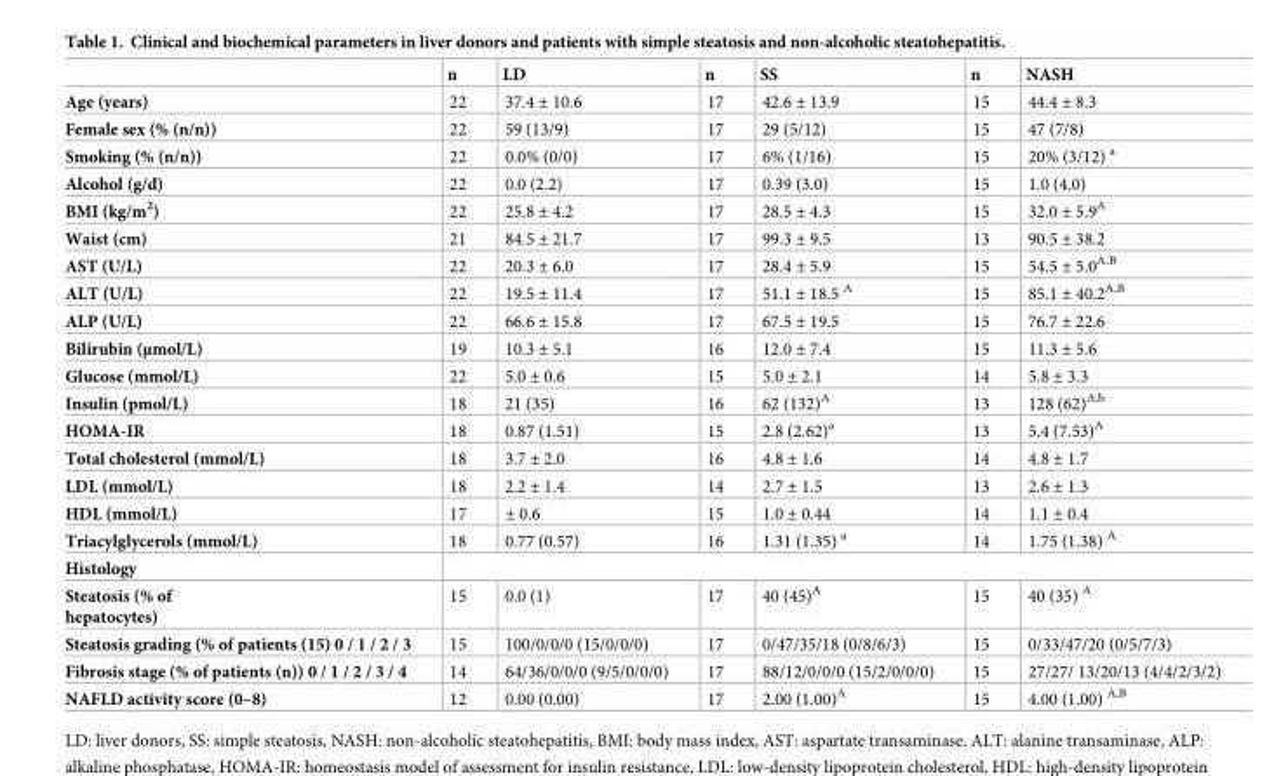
<table><thead><tr><td></td><td>n</td><td>LD</td><td>n</td><td>SS</td><td>n</td><td>NASH</td></tr></thead><tbody><tr><td>Age (years)</td><td>22</td><td>37.4 ± 10.6</td><td>17</td><td>42.6 ± 13.9</td><td>15</td><td>44.4 ± 8.3</td></tr><tr><td>Female sex (% (n/n))</td><td>22</td><td>59 (13/9)</td><td>17</td><td>29 (5/12)</td><td>15</td><td>47 (7/8)</td></tr><tr><td>Smoking (% (n/n))</td><td>22</td><td>0.0% (0/0)</td><td>17</td><td>6% (1/16)</td><td>15</td><td>20% (3/12) <sup>a</sup></td></tr><tr><td>Alcohol (g/d)</td><td>22</td><td>0.0 (2.2)</td><td>17</td><td>0.39 (3.0)</td><td>15</td><td>1.0 (4.0)</td></tr><tr><td>BMI (kg/m<sup>2</sup>)</td><td>22</td><td>25.8 ± 4.2</td><td>17</td><td>28.5 ± 4.3</td><td>15</td><td>32.0 ± 5.9<sup>A</sup></td></tr><tr><td>Waist (cm)</td><td>21</td><td>84.5 ± 21.7</td><td>17</td><td>99.3 ± 9.5</td><td>13</td><td>90.5 ± 38.2</td></tr><tr><td>AST (U/L)</td><td>22</td><td>20.3 ± 6.0</td><td>17</td><td>28.4 ± 5.9</td><td>15</td><td>54.5 ± 5.0<sup>A,B</sup></td></tr><tr><td>ALT (U/L)</td><td>22</td><td>19.5 ± 11.4</td><td>17</td><td>51.1 ± 18.5 <sup>A</sup></td><td>15</td><td>85.1 ± 40.2<sup>A,B</sup></td></tr><tr><td>ALP (U/L)</td><td>22</td><td>66.6 ± 15.8</td><td>17</td><td>67.5 ± 19.5</td><td>15</td><td>76.7 ± 22.6</td></tr><tr><td>Bilirubin (μmol/L)</td><td>19</td><td>10.3 ± 5.1</td><td>16</td><td>12.0 ± 7.4</td><td>15</td><td>11.3 ± 5.6</td></tr><tr><td>Glucose (mmol/L)</td><td>22</td><td>5.0 ± 0.6</td><td>15</td><td>5.0 ± 2.1</td><td>14</td><td>5.8 ± 3.3</td></tr><tr><td>Insulin (pmol/L)</td><td>18</td><td>21 (35)</td><td>16</td><td>62 (132)<sup>A</sup></td><td>13</td><td>128 (62)<sup>A,b</sup></td></tr><tr><td>HOMA-IR</td><td>18</td><td>0.87 (1.51)</td><td>15</td><td>2.8 (2.62)<sup>a</sup></td><td>13</td><td>5.4 (7.53)<sup>A</sup></td></tr><tr><td>Total cholesterol (mmol/L)</td><td>18</td><td>3.7 ± 2.0</td><td>16</td><td>4.8 ± 1.6</td><td>14</td><td>4.8 ± 1.7</td></tr><tr><td>LDL (mmol/L)</td><td>18</td><td>2.2 ± 1.4</td><td>14</td><td>2.7 ± 1.5</td><td>13</td><td>2.6 ± 1.3</td></tr><tr><td>HDL (mmol/L)</td><td>17</td><td>± 0.6</td><td>15</td><td>1.0 ± 0.44</td><td>14</td><td>1.1 ± 0.4</td></tr><tr><td>Triacylglycerols (mmol/L)</td><td>18</td><td>0.77 (0.57)</td><td>16</td><td>1.31 (1.35) <sup>a</sup></td><td>14</td><td>1.75 (1.38) <sup>A</sup></td></tr><tr><td colspan="7">Histology</td></tr><tr><td>Steatosis (% of hepatocytes)</td><td>15</td><td>0.0 (1)</td><td>17</td><td>40 (45)<sup>A</sup></td><td>15</td><td>40 (35) <sup>A</sup></td></tr><tr><td>Steatosis grading (% of patients (15) 0 / 1 / 2 / 3</td><td>15</td><td>100/0/0/0 (15/0/0/0)</td><td>17</td><td>0/47/35/18 (0/8/6/3)</td><td>15</td><td>0/33/47/20 (0/5/7/3)</td></tr><tr><td>Fibrosis stage (% of patients (n)) 0 / 1 / 2 / 3 / 4</td><td>14</td><td>64/36/0/0/0 (9/5/0/0/0)</td><td>17</td><td>88/12/0/0/0 (15/2/0/0/0)</td><td>15</td><td>27/27/ 13/20/13 (4/4/2/3/2)</td></tr><tr><td>NAFLD activity score (0–8)</td><td>12</td><td>0.00 (0.00)</td><td>17</td><td>2.00 (1.00)<sup>A</sup></td><td>15</td><td>4.00 (1.00) <sup>A,B</sup></td></tr></tbody></table>